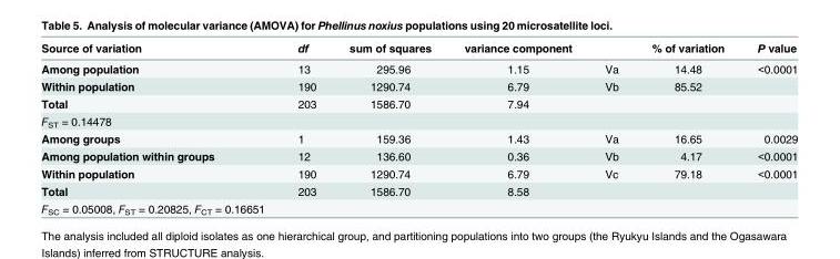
<table><thead><tr><td>Source of variation</td><td>df</td><td>sum of squares</td><td>variance component</td><td></td><td>% of variation</td><td>P value</td></tr></thead><tbody><tr><td>Among population</td><td>13</td><td>295.96</td><td>1.15</td><td>Va</td><td>14.48</td><td>&lt;0.0001</td></tr><tr><td>Within population</td><td>190</td><td>1290.74</td><td>6.79</td><td>Vb</td><td>85.52</td><td></td></tr><tr><td>Total</td><td>203</td><td>1586.70</td><td>7.94</td><td></td><td></td><td></td></tr><tr><td colspan="7">F<sub>ST</sub> = 0.14478</td></tr><tr><td>Among groups</td><td>1</td><td>159.36</td><td>1.43</td><td>Va</td><td>16.65</td><td>0.0029</td></tr><tr><td>Among population within groups</td><td>12</td><td>136.60</td><td>0.36</td><td>Vb</td><td>4.17</td><td>&lt;0.0001</td></tr><tr><td>Within population</td><td>190</td><td>1290.74</td><td>6.79</td><td>Vc</td><td>79.18</td><td>&lt;0.0001</td></tr><tr><td>Total</td><td>203</td><td>1586.70</td><td>8.58</td><td></td><td></td><td></td></tr><tr><td>F<sub>SC</sub> = 0.05008, F<sub>ST</sub> = 0.20825, F<sub>CT</sub> = 0.16651</td><td></td><td></td><td></td><td></td><td></td><td></td></tr></tbody></table>